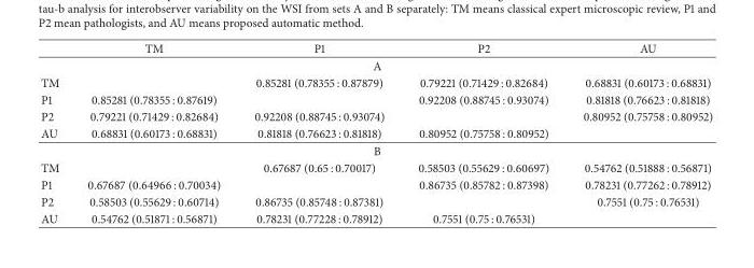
<table><thead><tr><td></td><td>TM</td><td>P1</td><td>P2</td><td>AU</td></tr></thead><tbody><tr><td colspan="5">A</td></tr><tr><td>TM</td><td></td><td>0.85281 (0.78355 : 0.87879)</td><td>0.79221 (0.71429 : 0.82684)</td><td>0.68831 (0.60173 : 0.68831)</td></tr><tr><td>P1</td><td>0.85281 (0.78355 : 0.87619)</td><td></td><td>0.92208 (0.88745 : 0.93074)</td><td>0.81818 (0.76623 : 0.81818)</td></tr><tr><td>P2</td><td>0.79221 (0.71429 : 0.82684)</td><td>0.92208 (0.88745 : 0.93074)</td><td></td><td>0.80952 (0.75758 : 0.80952)</td></tr><tr><td>AU</td><td>0.68831 (0.60173 : 0.68831)</td><td>0.81818 (0.76623 : 0.81818)</td><td>0.80952 (0.75758 : 0.80952)</td><td></td></tr><tr><td colspan="5">B</td></tr><tr><td>TM</td><td></td><td>0.67687 (0.65 : 0.70017)</td><td>0.58503 (0.55629 : 0.60697)</td><td>0.54762 (0.51888 : 0.56871)</td></tr><tr><td>P1</td><td>0.67687 (0.64966 : 0.70034)</td><td></td><td>0.86735 (0.85782 : 0.87398)</td><td>0.78231 (0.77262 : 0.78912)</td></tr><tr><td>P2</td><td>0.58503 (0.55629 : 0.60714)</td><td>0.86735 (0.85748 : 0.87381)</td><td></td><td>0.7551 (0.75 : 0.76531)</td></tr><tr><td>AU</td><td>0.54762 (0.51871 : 0.56871)</td><td>0.78231 (0.77228 : 0.78912)</td><td>0.7551 (0.75 : 0.76531)</td><td></td></tr></tbody></table>